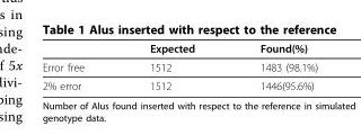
<table><thead><tr><td></td><td>Expected</td><td>Found(%)</td></tr></thead><tbody><tr><td>Error free</td><td>1512</td><td>1483 (98.1%)</td></tr><tr><td>2% error</td><td>1512</td><td>1446(95.6%)</td></tr></tbody></table>